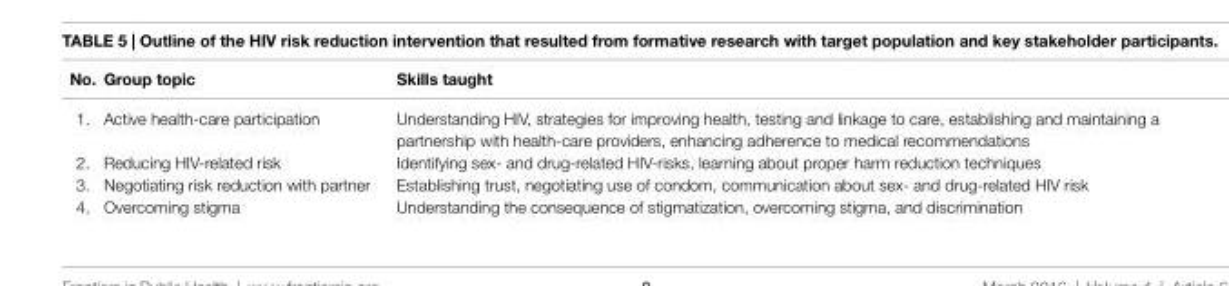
<table><thead><tr><td>no.</td><td>group topic</td><td>skills taught</td></tr></thead><tbody><tr><td>1.</td><td>Active health-care participation</td><td>Understanding HIV, strategies for improving health, testing and linkage to care, establishing and maintaining a partnership with health-care providers, enhancing adherence to medical recommendations</td></tr><tr><td>2.</td><td>Reducing HIV-related risk</td><td>Identifying sex- and drug-related HIV-risks, learning about proper harm reduction techniques</td></tr><tr><td>3.</td><td>Negotiating risk reduction with partner</td><td>Establishing trust, negotiating use of condom, communication about sex- and drug-related HIV risk</td></tr><tr><td>4.</td><td>Overcoming stigma</td><td>Understanding the consequence of stigmatization, overcoming stigma, and discrimination</td></tr></tbody></table>